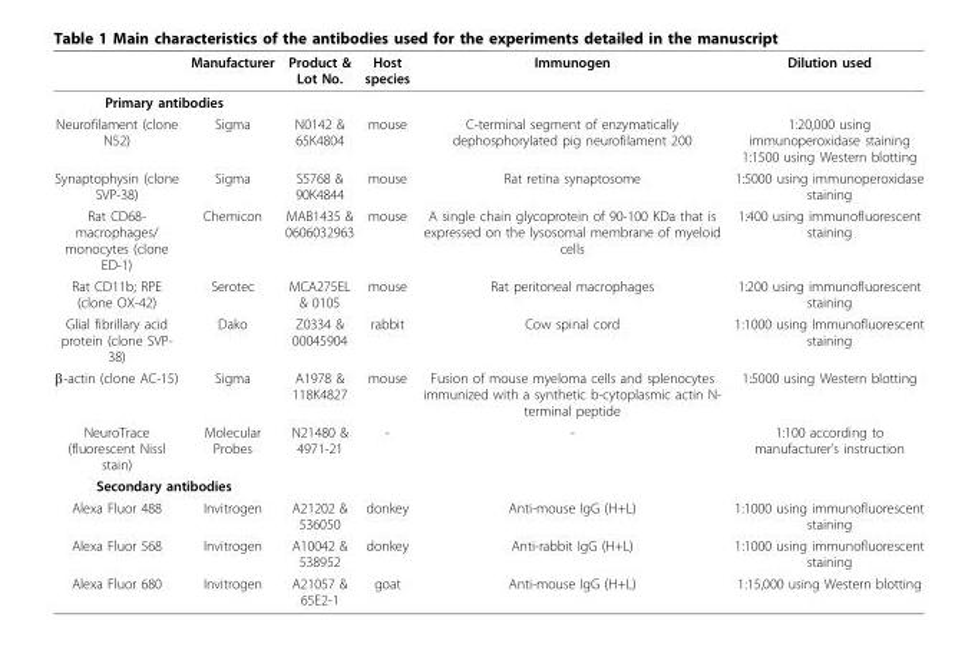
<table><thead><tr><td></td><td>Manufacturer</td><td>Product &amp; Lot No.</td><td>Host species</td><td>Immunogen</td><td>Dilution used</td></tr></thead><tbody><tr><td colspan="6">Primary antibodies</td></tr><tr><td>Neurofilament (clone N52)</td><td>Sigma</td><td>N0142 &amp; 65K4804</td><td>mouse</td><td>C-terminal segment of enzymatically dephosphorylated pig neurofilament 200</td><td>1:20,000 using immunoperoxidase staining 1:1500 using Western blotting</td></tr><tr><td>Synaptophysin (clone SVP-38)</td><td>Sigma</td><td>S5768 &amp; 90K4844</td><td>mouse</td><td>Rat retina synaptosome</td><td>1:5000 using immunoperoxidase staining</td></tr><tr><td>Rat CD68- macrophages/ monocytes (clone ED-1)</td><td>Chemicon</td><td>MAB1435 &amp; 0606032963</td><td>mouse</td><td>A single chain glycoprotein of 90-100 KDa that is expressed on the lysosomal membrane of myeloid cells</td><td>1:400 using immunofluorescent staining</td></tr><tr><td>Rat CD11b; RPE (clone OX-42)</td><td>Serotec</td><td>MCA275EL &amp; 0105</td><td>mouse</td><td>Rat peritoneal macrophages</td><td>1:200 using immunofluorescent staining</td></tr><tr><td>Glial fibrillary acid protein (clone SVP- 38)</td><td>Dako</td><td>Z0334 &amp; 00045904</td><td>rabbit</td><td>Cow spinal cord</td><td>1:1000 using Immunofluorescent staining</td></tr><tr><td>β-actin (clone AC-15)</td><td>Sigma</td><td>A1978 &amp; 118K4827</td><td>mouse</td><td>Fusion of mouse myeloma cells and splenocytes immunized with a synthetic b-cytoplasmic actin N- terminal peptide</td><td>1:5000 using Western blotting</td></tr><tr><td>NeuroTrace (fluorescent Nissl stain)</td><td>Molecular Probes</td><td>N21480 &amp; 4971-21</td><td>-</td><td>-</td><td>1:100 according to manufacturer’s instruction</td></tr><tr><td colspan="6">Secondary antibodies</td></tr><tr><td>Alexa Fluor 488</td><td>Invitrogen</td><td>A21202 &amp; 536050</td><td>donkey</td><td>Anti-mouse IgG (H+L)</td><td>1:1000 using immunofluorescent staining</td></tr><tr><td>Alexa Fluor 568</td><td>Invitrogen</td><td>A10042 &amp; 538952</td><td>donkey</td><td>Anti-rabbit IgG (H+L)</td><td>1:1000 using immunofluorescent staining</td></tr><tr><td>Alexa Fluor 680</td><td>Invitrogen</td><td>A21057 &amp; 65E2-1</td><td>goat</td><td>Anti-mouse IgG (H+L)</td><td>1:15,000 using Western blotting</td></tr></tbody></table>